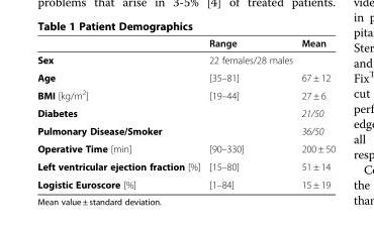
<table><thead><tr><td></td><td>Range</td><td>Mean</td></tr></thead><tbody><tr><td>Sex</td><td>22 females/28 males</td><td></td></tr><tr><td>Age</td><td>[35–81]</td><td>67 ± 12</td></tr><tr><td>BMI [kg/m<sup>2</sup>]</td><td>[19–44]</td><td>27 ± 6</td></tr><tr><td>Diabetes</td><td></td><td>21/50</td></tr><tr><td>Pulmonary Disease/Smoker</td><td></td><td>36/50</td></tr><tr><td>Operative Time [min]</td><td>[90–330]</td><td>200 ± 50</td></tr><tr><td>Left ventricular ejection fraction [%]</td><td>[15–80]</td><td>51 ± 14</td></tr><tr><td>Logistic Euroscore [%]</td><td>[1–84]</td><td>15 ± 19</td></tr></tbody></table>